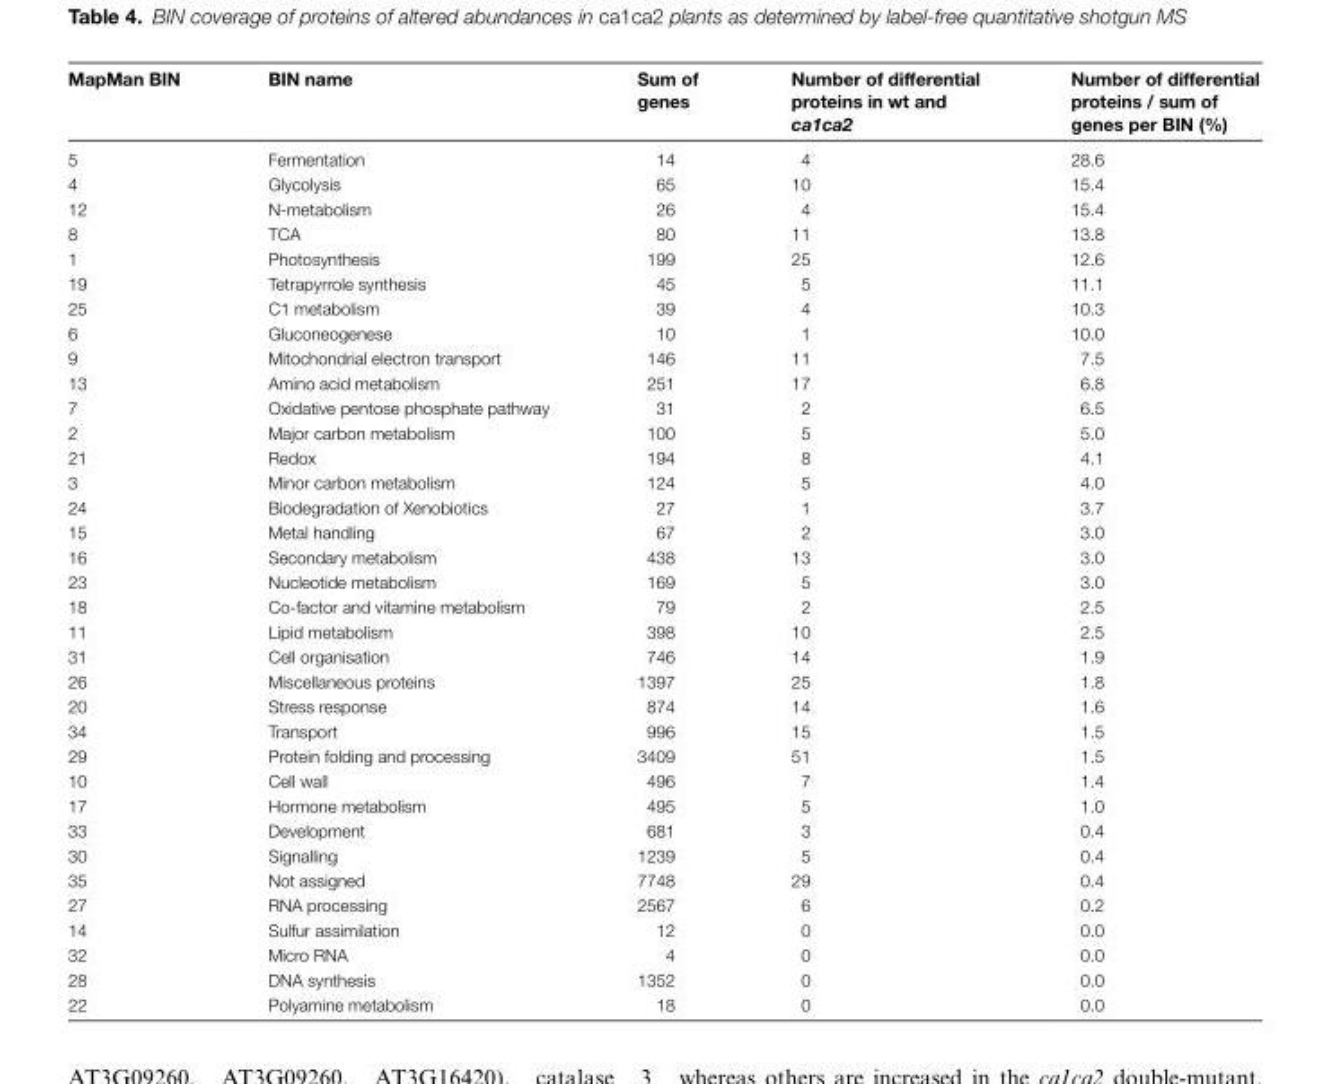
<table><thead><tr><td>MapMan BIN</td><td>BIN name</td><td>Sum of genes</td><td>Number of differential proteins in wt and ca1ca2</td><td>Number of differential proteins / sum of genes per BIN (%)</td></tr></thead><tbody><tr><td>5</td><td>Fermentation</td><td>14</td><td>4</td><td>28.6</td></tr><tr><td>4</td><td>Glycolysis</td><td>65</td><td>10</td><td>15.4</td></tr><tr><td>12</td><td>N-metabolism</td><td>26</td><td>4</td><td>15.4</td></tr><tr><td>8</td><td>TCA</td><td>80</td><td>11</td><td>13.8</td></tr><tr><td>1</td><td>Photosynthesis</td><td>199</td><td>25</td><td>12.6</td></tr><tr><td>19</td><td>Tetrapyrrole synthesis</td><td>45</td><td>5</td><td>11.1</td></tr><tr><td>25</td><td>C1 metabolism</td><td>39</td><td>4</td><td>10.3</td></tr><tr><td>6</td><td>Gluconeogenese</td><td>10</td><td>1</td><td>10.0</td></tr><tr><td>9</td><td>Mitochondrial electron transport</td><td>146</td><td>11</td><td>7.5</td></tr><tr><td>13</td><td>Amino acid metabolism</td><td>251</td><td>17</td><td>6.8</td></tr><tr><td>7</td><td>Oxidative pentose phosphate pathway</td><td>31</td><td>2</td><td>6.5</td></tr><tr><td>2</td><td>Major carbon metabolism</td><td>100</td><td>5</td><td>5.0</td></tr><tr><td>21</td><td>Redox</td><td>194</td><td>8</td><td>4.1</td></tr><tr><td>3</td><td>Minor carbon metabolism</td><td>124</td><td>5</td><td>4.0</td></tr><tr><td>24</td><td>Biodegradation of Xenobiotics</td><td>27</td><td>1</td><td>3.7</td></tr><tr><td>15</td><td>Metal handling</td><td>67</td><td>2</td><td>3.0</td></tr><tr><td>16</td><td>Secondary metabolism</td><td>438</td><td>13</td><td>3.0</td></tr><tr><td>23</td><td>Nucleotide metabolism</td><td>169</td><td>5</td><td>3.0</td></tr><tr><td>18</td><td>Co-factor and vitamine metabolism</td><td>79</td><td>2</td><td>2.5</td></tr><tr><td>11</td><td>Lipid metabolism</td><td>398</td><td>10</td><td>2.5</td></tr><tr><td>31</td><td>Cell organisation</td><td>746</td><td>14</td><td>1.9</td></tr><tr><td>26</td><td>Miscellaneous proteins</td><td>1397</td><td>25</td><td>1.8</td></tr><tr><td>20</td><td>Stress response</td><td>874</td><td>14</td><td>1.6</td></tr><tr><td>34</td><td>Transport</td><td>996</td><td>15</td><td>1.5</td></tr><tr><td>29</td><td>Protein folding and processing</td><td>3409</td><td>51</td><td>1.5</td></tr><tr><td>10</td><td>Cell wall</td><td>496</td><td>7</td><td>1.4</td></tr><tr><td>17</td><td>Hormone metabolism</td><td>495</td><td>5</td><td>1.0</td></tr><tr><td>33</td><td>Development</td><td>681</td><td>3</td><td>0.4</td></tr><tr><td>30</td><td>Signalling</td><td>1239</td><td>5</td><td>0.4</td></tr><tr><td>35</td><td>Not assigned</td><td>7748</td><td>29</td><td>0.4</td></tr><tr><td>27</td><td>RNA processing</td><td>2567</td><td>6</td><td>0.2</td></tr><tr><td>14</td><td>Sulfur assimilation</td><td>12</td><td>0</td><td>0.0</td></tr><tr><td>32</td><td>Micro RNA</td><td>4</td><td>0</td><td>0.0</td></tr><tr><td>28</td><td>DNA synthesis</td><td>1352</td><td>0</td><td>0.0</td></tr><tr><td>22</td><td>Polyamine metabolism</td><td>18</td><td>0</td><td>0.0</td></tr></tbody></table>